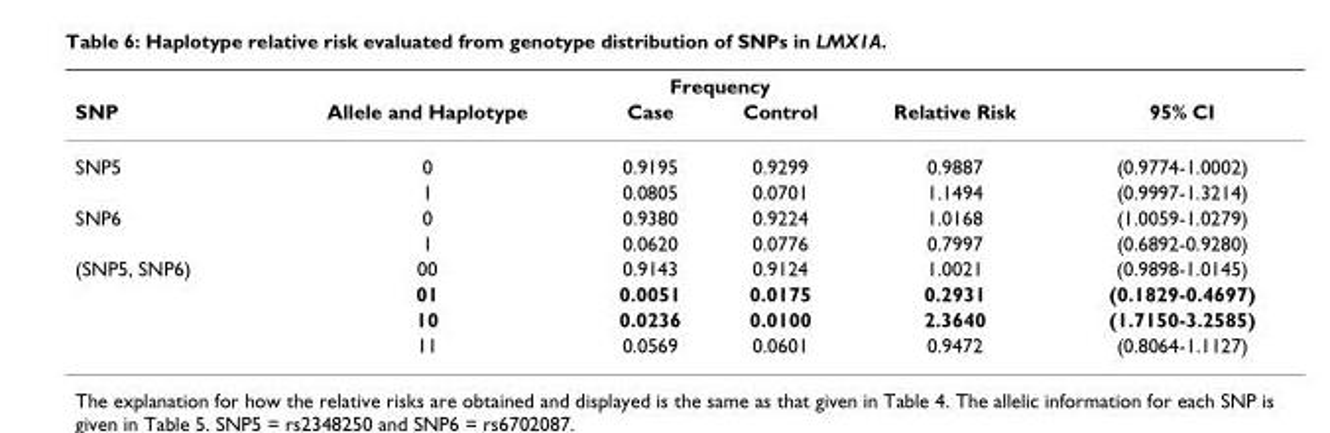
<table><thead><tr><td rowspan="2">SNP</td><td rowspan="2">Allele and Haplotype</td><td colspan="2">Frequency</td><td rowspan="2">Relative Risk</td><td rowspan="2">95% CI</td></tr><tr><td>Case</td><td>Control</td></tr></thead><tbody><tr><td rowspan="2">SNP5</td><td>0</td><td>0.9195</td><td>0.9299</td><td>0.9887</td><td>(0.9774-1.0002)</td></tr><tr><td>1</td><td>0.0805</td><td>0.0701</td><td>1.1494</td><td>(0.9997-1.3214)</td></tr><tr><td rowspan="2">SNP6</td><td>0</td><td>0.9380</td><td>0.9224</td><td>1.0168</td><td>(1.0059-1.0279)</td></tr><tr><td>1</td><td>0.0620</td><td>0.0776</td><td>0.7997</td><td>(0.6892-0.9280)</td></tr><tr><td rowspan="4">(SNP5, SNP6)</td><td>00</td><td>0.9143</td><td>0.9124</td><td>1.0021</td><td>(0.9898-1.0145)</td></tr><tr><td>01</td><td>0.0051</td><td>0.0175</td><td>0.2931</td><td>(0.1829-0.4697)</td></tr><tr><td>10</td><td>0.0236</td><td>0.0100</td><td>2.3640</td><td>(1.7150-3.2585)</td></tr><tr><td>11</td><td>0.0569</td><td>0.0601</td><td>0.9472</td><td>(0.8064-1.1127)</td></tr></tbody></table>